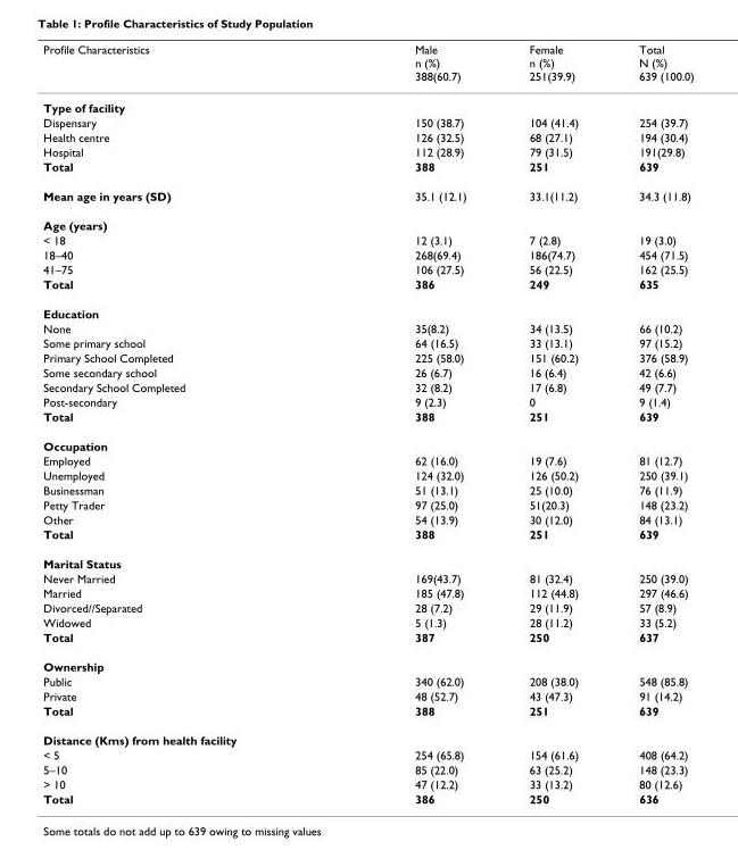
<table><thead><tr><td>Profile Characteristics</td><td>Male n (%) 388(60.7)</td><td>Female n (%) 251(39.9)</td><td>Total N (%) 639 (100.0)</td></tr></thead><tbody><tr><td colspan="4">Type of facility</td></tr><tr><td>Dispensary</td><td>150 (38.7)</td><td>104 (41.4)</td><td>254 (39.7)</td></tr><tr><td>Health centre</td><td>126 (32.5)</td><td>68 (27.1)</td><td>194 (30.4)</td></tr><tr><td>Hospital</td><td>112 (28.9)</td><td>79 (31.5)</td><td>191(29.8)</td></tr><tr><td>Total</td><td>388</td><td>251</td><td>639</td></tr><tr><td>Mean age in years (SD)</td><td>35.1 (12.1)</td><td>33.1(11.2)</td><td>34.3 (11.8)</td></tr><tr><td colspan="4">Age (years)</td></tr><tr><td>&lt; 18</td><td>12 (3.1)</td><td>7 (2.8)</td><td>19 (3.0)</td></tr><tr><td>18–40</td><td>268(69.4)</td><td>186(74.7)</td><td>454 (71.5)</td></tr><tr><td>41–75</td><td>106 (27.5)</td><td>56 (22.5)</td><td>162 (25.5)</td></tr><tr><td>Total</td><td>386</td><td>249</td><td>635</td></tr><tr><td colspan="4">Education</td></tr><tr><td>None</td><td>35(8.2)</td><td>34 (13.5)</td><td>66 (10.2)</td></tr><tr><td>Some primary school</td><td>64 (16.5)</td><td>33 (13.1)</td><td>97 (15.2)</td></tr><tr><td>Primary School Completed</td><td>225 (58.0)</td><td>151 (60.2)</td><td>376 (58.9)</td></tr><tr><td>Some secondary school</td><td>26 (6.7)</td><td>16 (6.4)</td><td>42 (6.6)</td></tr><tr><td>Secondary School Completed</td><td>32 (8.2)</td><td>17 (6.8)</td><td>49 (7.7)</td></tr><tr><td>Post-secondary</td><td>9 (2.3)</td><td>0</td><td>9 (1.4)</td></tr><tr><td>Total</td><td>388</td><td>251</td><td>639</td></tr><tr><td colspan="4">Occupation</td></tr><tr><td>Employed</td><td>62 (16.0)</td><td>19 (7.6)</td><td>81 (12.7)</td></tr><tr><td>Unemployed</td><td>124 (32.0)</td><td>126 (50.2)</td><td>250 (39.1)</td></tr><tr><td>Businessman</td><td>51 (13.1)</td><td>25 (10.0)</td><td>76 (11.9)</td></tr><tr><td>Petty Trader</td><td>97 (25.0)</td><td>51(20.3)</td><td>148 (23.2)</td></tr><tr><td>Other</td><td>54 (13.9)</td><td>30 (12.0)</td><td>84 (13.1)</td></tr><tr><td>Total</td><td>388</td><td>251</td><td>639</td></tr><tr><td colspan="4">Marital Status</td></tr><tr><td>Never Married</td><td>169(43.7)</td><td>81 (32.4)</td><td>250 (39.0)</td></tr><tr><td>Married</td><td>185 (47.8)</td><td>112 (44.8)</td><td>297 (46.6)</td></tr><tr><td>Divorced//Separated</td><td>28 (7.2)</td><td>29 (11.9)</td><td>57 (8.9)</td></tr><tr><td>Widowed</td><td>5 (1.3)</td><td>28 (11.2)</td><td>33 (5.2)</td></tr><tr><td>Total</td><td>387</td><td>250</td><td>637</td></tr><tr><td colspan="4">Ownership</td></tr><tr><td>Public</td><td>340 (62.0)</td><td>208 (38.0)</td><td>548 (85.8)</td></tr><tr><td>Private</td><td>48 (52.7)</td><td>43 (47.3)</td><td>91 (14.2)</td></tr><tr><td>Total</td><td>388</td><td>251</td><td>639</td></tr><tr><td colspan="4">Distance (Kms) from health facility</td></tr><tr><td>&lt; 5</td><td>254 (65.8)</td><td>154 (61.6)</td><td>408 (64.2)</td></tr><tr><td>5–10</td><td>85 (22.0)</td><td>63 (25.2)</td><td>148 (23.3)</td></tr><tr><td>&gt; 10</td><td>47 (12.2)</td><td>33 (13.2)</td><td>80 (12.6)</td></tr><tr><td>Total</td><td>386</td><td>250</td><td>636</td></tr></tbody></table>